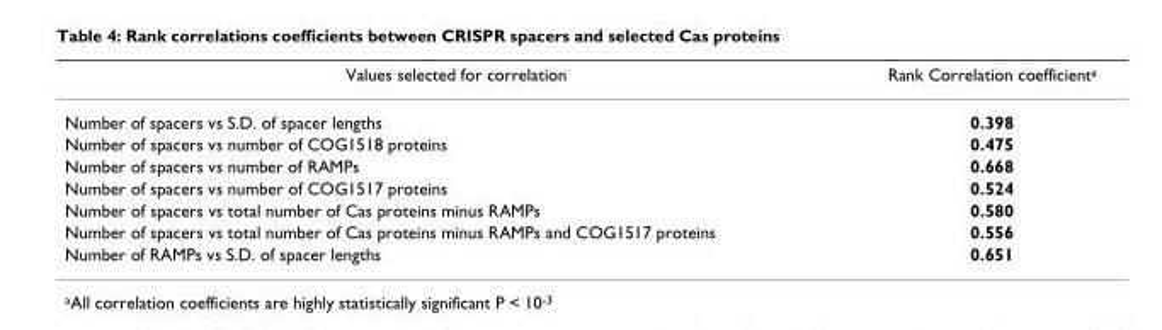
<table><thead><tr><td>Values selected for correlation</td><td>Rank Correlation coefficient<sup>a</sup></td></tr></thead><tbody><tr><td>Number of spacers vs S.D. of spacer lengths</td><td>0.398</td></tr><tr><td>Number of spacers vs number of COG1518 proteins</td><td>0.475</td></tr><tr><td>Number of spacers vs number of RAMPs</td><td>0.668</td></tr><tr><td>Number of spacers vs number of COG1517 proteins</td><td>0.524</td></tr><tr><td>Number of spacers vs total number of Cas proteins minus RAMPs</td><td>0.580</td></tr><tr><td>Number of spacers vs total number of Cas proteins minus RAMPs and COG1517 proteins</td><td>0.556</td></tr><tr><td>Number of RAMPs vs S.D. of spacer lengths</td><td>0.651</td></tr></tbody></table>